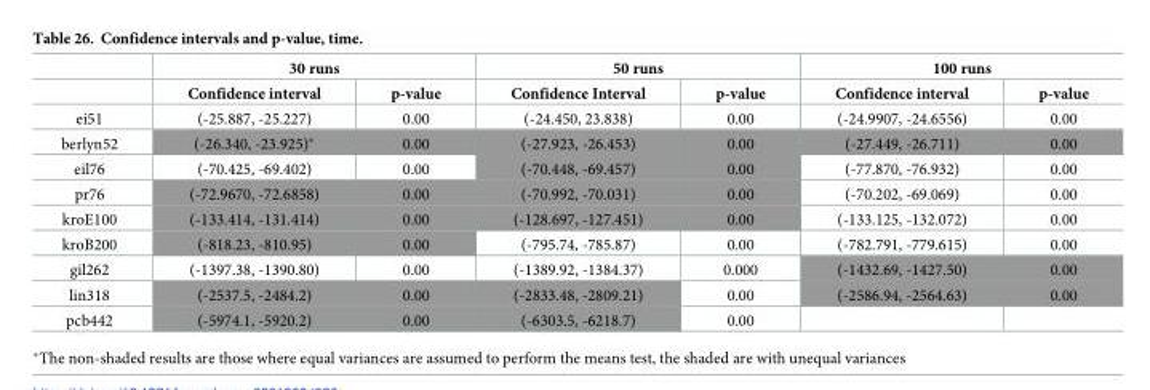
<table><thead><tr><td rowspan="2"></td><td colspan="2">30 runs</td><td colspan="2">50 runs</td><td colspan="2">100 runs</td></tr><tr><td>Confidence interval</td><td>p-value</td><td>Confidence Interval</td><td>p-value</td><td>Confidence interval</td><td>p-value</td></tr></thead><tbody><tr><td>ei51</td><td>(-25.887, -25.227)</td><td>0.00</td><td>(-24.450, 23.838)</td><td>0.00</td><td>(-24.9907, -24.6556)</td><td>0.00</td></tr><tr><td>berlyn52</td><td>(-26.340, -23.925)*</td><td>0.00</td><td>(-27.923, -26.453)</td><td>0.00</td><td>(-27.449, -26.711)</td><td>0.00</td></tr><tr><td>eil76</td><td>(-70.425, -69.402)</td><td>0.00</td><td>(-70.448, -69.457)</td><td>0.00</td><td>(-77.870, -76.932)</td><td>0.00</td></tr><tr><td>pr76</td><td>(-72.9670, -72.6858)</td><td>0.00</td><td>(-70.992, -70.031)</td><td>0.00</td><td>(-70.202, -69.069)</td><td>0.00</td></tr><tr><td>kroE100</td><td>(-133.414, -131.414)</td><td>0.00</td><td>(-128.697, -127.451)</td><td>0.00</td><td>(-133.125, -132.072)</td><td>0.00</td></tr><tr><td>kroB200</td><td>(-818.23, -810.95)</td><td>0.00</td><td>(-795.74, -785.87)</td><td>0.00</td><td>(-782.791, -779.615)</td><td>0.00</td></tr><tr><td>gil262</td><td>(-1397.38, -1390.80)</td><td>0.00</td><td>(-1389.92, -1384.37)</td><td>0.000</td><td>(-1432.69, -1427.50)</td><td>0.00</td></tr><tr><td>lin318</td><td>(-2537.5, -2484.2)</td><td>0.00</td><td>(-2833.48, -2809.21)</td><td>0.00</td><td>(-2586.94, -2564.63)</td><td>0.00</td></tr><tr><td>pcb442</td><td>(-5974.1, -5920.2)</td><td>0.00</td><td>(-6303.5, -6218.7)</td><td>0.00</td><td></td><td></td></tr></tbody></table>